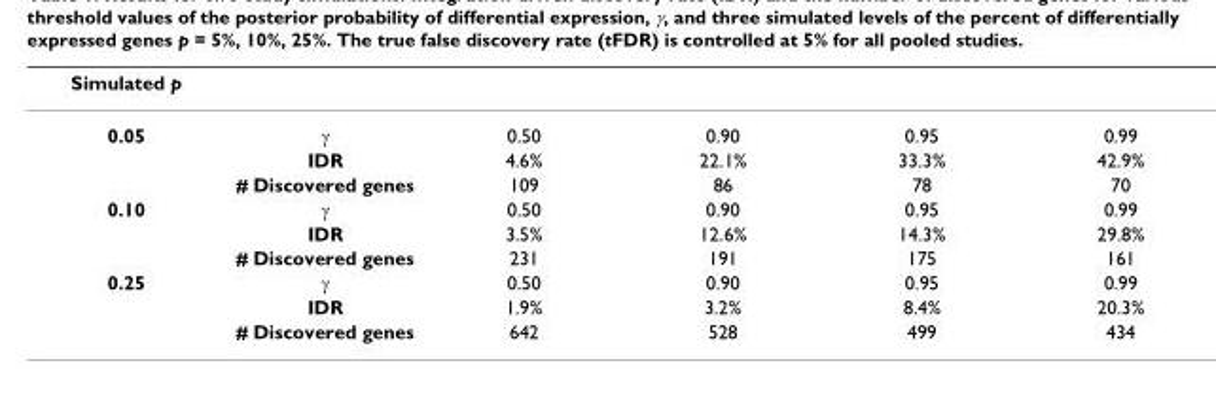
<table><thead><tr><td>Simulated p</td><td></td><td></td><td></td><td></td><td></td></tr></thead><tbody><tr><td rowspan="3">0.05</td><td>γ</td><td>0.50</td><td>0.90</td><td>0.95</td><td>0.99</td></tr><tr><td>IDR</td><td>4.6%</td><td>22.1%</td><td>33.3%</td><td>42.9%</td></tr><tr><td># Discovered genes</td><td>109</td><td>86</td><td>78</td><td>70</td></tr><tr><td rowspan="3">0.10</td><td>γ</td><td>0.50</td><td>0.90</td><td>0.95</td><td>0.99</td></tr><tr><td>IDR</td><td>3.5%</td><td>12.6%</td><td>14.3%</td><td>29.8%</td></tr><tr><td># Discovered genes</td><td>231</td><td>191</td><td>175</td><td>161</td></tr><tr><td rowspan="3">0.25</td><td>γ</td><td>0.50</td><td>0.90</td><td>0.95</td><td>0.99</td></tr><tr><td>IDR</td><td>1.9%</td><td>3.2%</td><td>8.4%</td><td>20.3%</td></tr><tr><td># Discovered genes</td><td>642</td><td>528</td><td>499</td><td>434</td></tr></tbody></table>